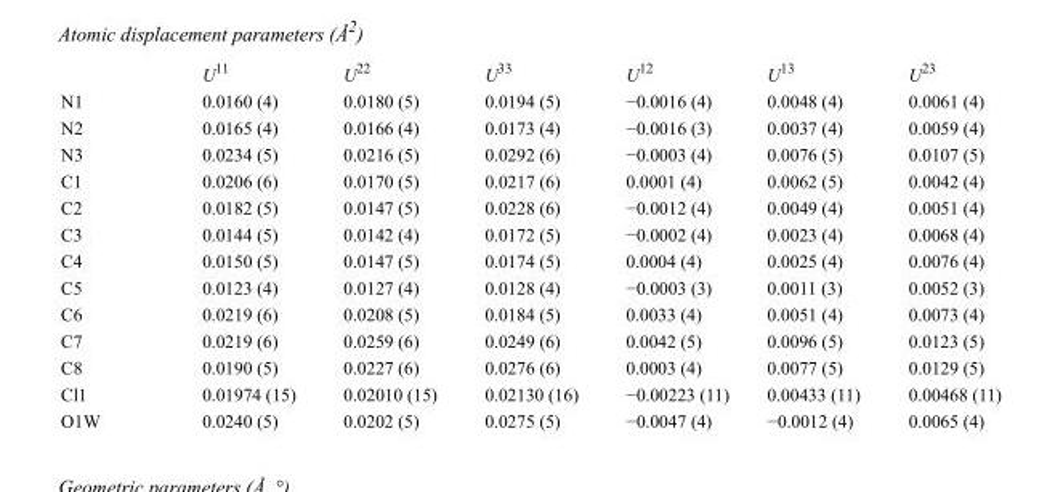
<table><thead><tr><td></td><td>U<sup>11</sup></td><td>U<sup>22</sup></td><td>U<sup>33</sup></td><td>U<sup>12</sup></td><td>U<sup>13</sup></td><td>U<sup>23</sup></td></tr></thead><tbody><tr><td>N1</td><td>0.0160 (4)</td><td>0.0180 (5)</td><td>0.0194 (5)</td><td>−0.0016 (4)</td><td>0.0048 (4)</td><td>0.0061 (4)</td></tr><tr><td>N2</td><td>0.0165 (4)</td><td>0.0166 (4)</td><td>0.0173 (4)</td><td>−0.0016 (3)</td><td>0.0037 (4)</td><td>0.0059 (4)</td></tr><tr><td>N3</td><td>0.0234 (5)</td><td>0.0216 (5)</td><td>0.0292 (6)</td><td>−0.0003 (4)</td><td>0.0076 (5)</td><td>0.0107 (5)</td></tr><tr><td>C1</td><td>0.0206 (6)</td><td>0.0170 (5)</td><td>0.0217 (6)</td><td>0.0001 (4)</td><td>0.0062 (5)</td><td>0.0042 (4)</td></tr><tr><td>C2</td><td>0.0182 (5)</td><td>0.0147 (5)</td><td>0.0228 (6)</td><td>−0.0012 (4)</td><td>0.0049 (4)</td><td>0.0051 (4)</td></tr><tr><td>C3</td><td>0.0144 (5)</td><td>0.0142 (4)</td><td>0.0172 (5)</td><td>−0.0002 (4)</td><td>0.0023 (4)</td><td>0.0068 (4)</td></tr><tr><td>C4</td><td>0.0150 (5)</td><td>0.0147 (5)</td><td>0.0174 (5)</td><td>0.0004 (4)</td><td>0.0025 (4)</td><td>0.0076 (4)</td></tr><tr><td>C5</td><td>0.0123 (4)</td><td>0.0127 (4)</td><td>0.0128 (4)</td><td>−0.0003 (3)</td><td>0.0011 (3)</td><td>0.0052 (3)</td></tr><tr><td>C6</td><td>0.0219 (6)</td><td>0.0208 (5)</td><td>0.0184 (5)</td><td>0.0033 (4)</td><td>0.0051 (4)</td><td>0.0073 (4)</td></tr><tr><td>C7</td><td>0.0219 (6)</td><td>0.0259 (6)</td><td>0.0249 (6)</td><td>0.0042 (5)</td><td>0.0096 (5)</td><td>0.0123 (5)</td></tr><tr><td>C8</td><td>0.0190 (5)</td><td>0.0227 (6)</td><td>0.0276 (6)</td><td>0.0003 (4)</td><td>0.0077 (5)</td><td>0.0129 (5)</td></tr><tr><td>Cl1</td><td>0.01974 (15)</td><td>0.02010 (15)</td><td>0.02130 (16)</td><td>−0.00223 (11)</td><td>0.00433 (11)</td><td>0.00468 (11)</td></tr><tr><td>O1W</td><td>0.0240 (5)</td><td>0.0202 (5)</td><td>0.0275 (5)</td><td>−0.0047 (4)</td><td>−0.0012 (4)</td><td>0.0065 (4)</td></tr></tbody></table>